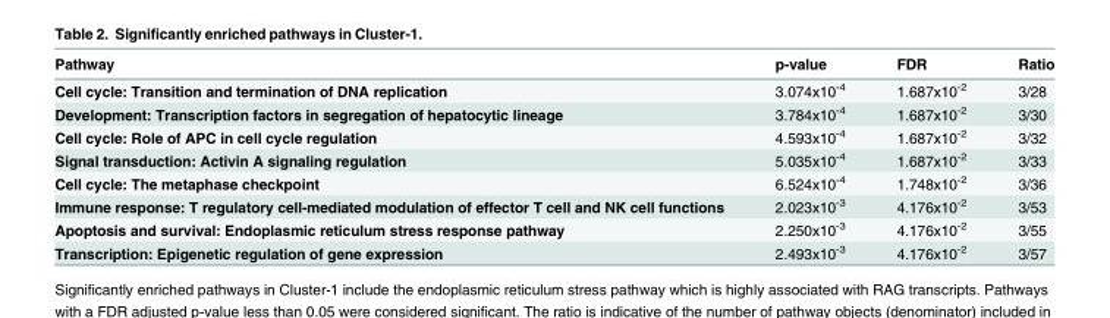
<table><thead><tr><td>Pathway</td><td>p-value</td><td>FDR</td><td>Ratio</td></tr></thead><tbody><tr><td>Cell cycle: Transition and termination of DNA replication</td><td>3.074x10<sup>-4</sup></td><td>1.687x10<sup>-2</sup></td><td>3/28</td></tr><tr><td>Development: Transcription factors in segregation of hepatocytic lineage</td><td>3.784x10<sup>-4</sup></td><td>1.687x10<sup>-2</sup></td><td>3/30</td></tr><tr><td>Cell cycle: Role of APC in cell cycle regulation</td><td>4.593x10<sup>-4</sup></td><td>1.687x10<sup>-2</sup></td><td>3/32</td></tr><tr><td>Signal transduction: Activin A signaling regulation</td><td>5.035x10<sup>-4</sup></td><td>1.687x10<sup>-2</sup></td><td>3/33</td></tr><tr><td>Cell cycle: The metaphase checkpoint</td><td>6.524x10<sup>-4</sup></td><td>1.748x10<sup>-2</sup></td><td>3/36</td></tr><tr><td>Immune response: T regulatory cell-mediated modulation of effector T cell and NK cell functions</td><td>2.023x10<sup>-3</sup></td><td>4.176x10<sup>-2</sup></td><td>3/53</td></tr><tr><td>Apoptosis and survival: Endoplasmic reticulum stress response pathway</td><td>2.250x10<sup>-3</sup></td><td>4.176x10<sup>-2</sup></td><td>3/55</td></tr><tr><td>Transcription: Epigenetic regulation of gene expression</td><td>2.493x10<sup>-3</sup></td><td>4.176x10<sup>-2</sup></td><td>3/57</td></tr></tbody></table>